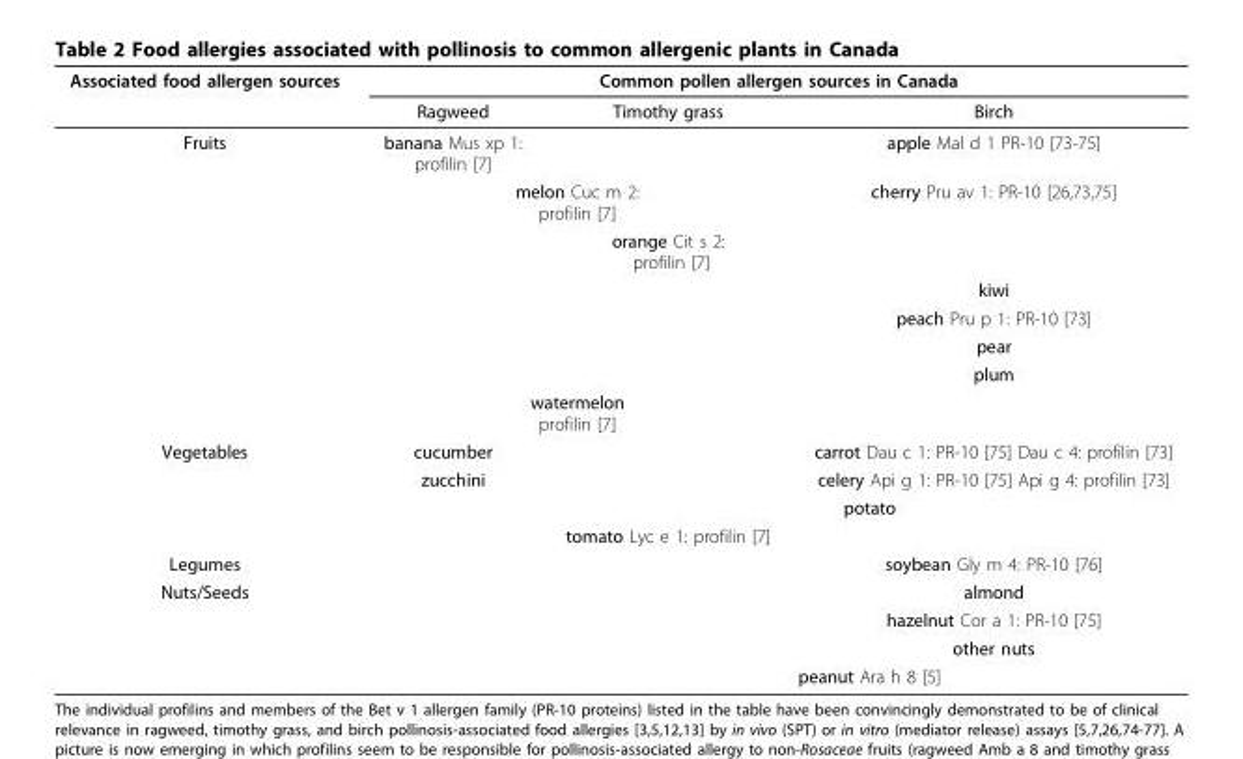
<table><thead><tr><td rowspan="2">Associated food allergen sources</td><td colspan="3">Common pollen allergen sources in Canada</td></tr><tr><td>Ragweed</td><td>Timothy grass</td><td>Birch</td></tr></thead><tbody><tr><td rowspan="8">Fruits</td><td>banana Mus xp 1: profilin [7]</td><td></td><td>apple Mal d 1 PR-10 [73-75]</td></tr><tr><td colspan="2">melon Cuc m 2: profilin [7]</td><td>cherry Pru av 1: PR-10 [26,73,75]</td></tr><tr><td></td><td>orange Cit s 2: profilin [7]</td><td></td></tr><tr><td></td><td></td><td>kiwi</td></tr><tr><td></td><td></td><td>peach Pru p 1: PR-10 [73]</td></tr><tr><td></td><td></td><td>pear</td></tr><tr><td></td><td></td><td>plum</td></tr><tr><td colspan="2">watermelon profilin [7]</td><td></td></tr><tr><td rowspan="4">Vegetables</td><td>cucumber</td><td></td><td>carrot Dau c 1: PR-10 [75] Dau c 4: profilin [73]</td></tr><tr><td>zucchini</td><td></td><td>celery Api g 1: PR-10 [75] Api g 4: profilin [73]</td></tr><tr><td></td><td colspan="2">potato</td></tr><tr><td></td><td>tomato Lyc e 1: profilin [7]</td><td></td></tr><tr><td>Legumes</td><td></td><td></td><td>soybean Gly m 4: PR-10 [76]</td></tr><tr><td rowspan="4">Nuts/Seeds</td><td></td><td></td><td>almond</td></tr><tr><td></td><td></td><td>hazelnut Cor a 1: PR-10 [75]</td></tr><tr><td></td><td></td><td>other nuts</td></tr><tr><td></td><td colspan="2">peanut Ara h 8 [5]</td></tr></tbody></table>